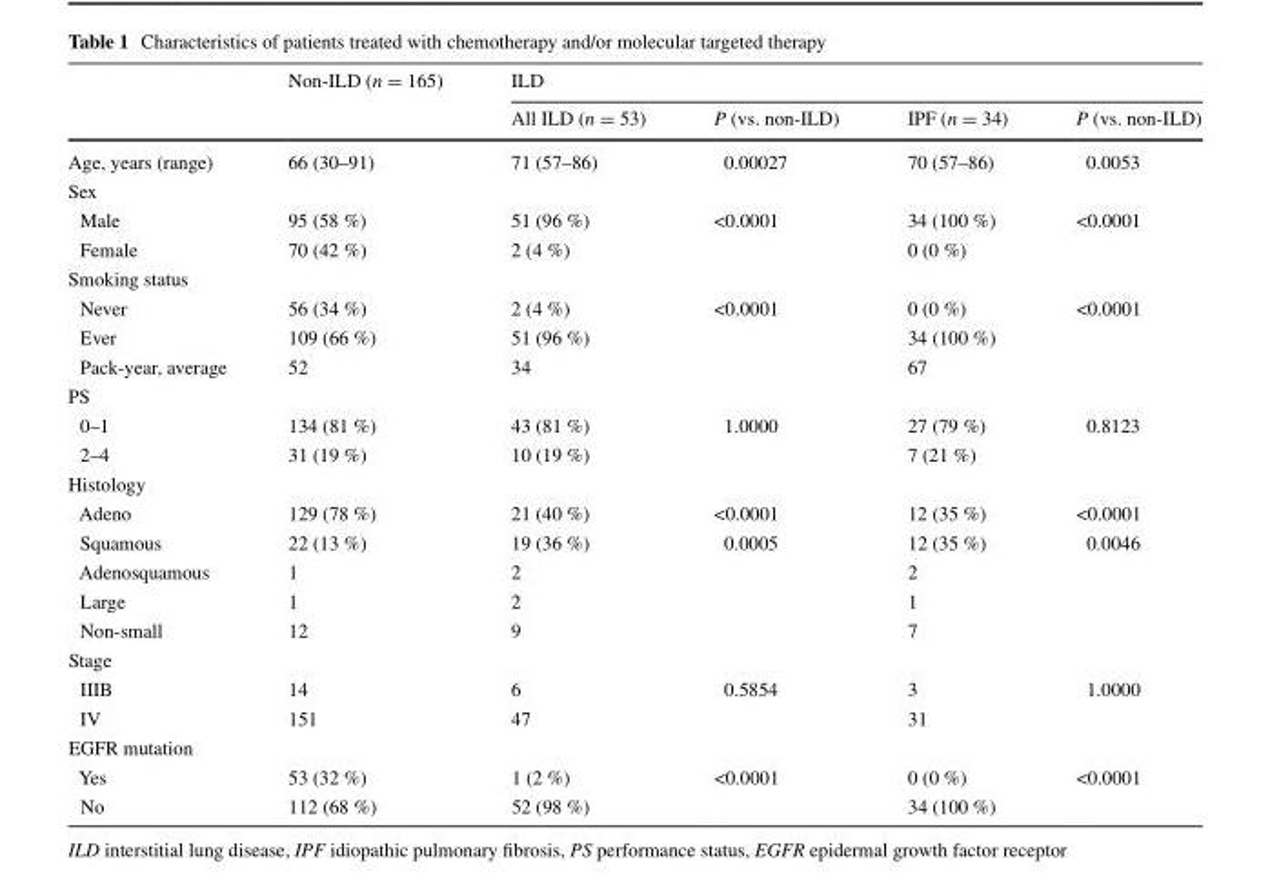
<table><thead><tr><td rowspan="2"></td><td rowspan="2">Non-ILD (n = 165)</td><td colspan="4">ILD</td></tr><tr><td>All ILD (n = 53)</td><td>P (vs. non-ILD)</td><td>IPF (n = 34)</td><td>P (vs. non-ILD)</td></tr></thead><tbody><tr><td>Age, years (range)</td><td>66 (30–91)</td><td>71 (57–86)</td><td>0.00027</td><td>70 (57–86)</td><td>0.0053</td></tr><tr><td colspan="6">Sex</td></tr><tr><td>Male</td><td>95 (58 %)</td><td>51 (96 %)</td><td>&lt;0.0001</td><td>34 (100 %)</td><td>&lt;0.0001</td></tr><tr><td>Female</td><td>70 (42 %)</td><td>2 (4 %)</td><td></td><td>0 (0 %)</td><td></td></tr><tr><td colspan="6">Smoking status</td></tr><tr><td>Never</td><td>56 (34 %)</td><td>2 (4 %)</td><td>&lt;0.0001</td><td>0 (0 %)</td><td>&lt;0.0001</td></tr><tr><td>Ever</td><td>109 (66 %)</td><td>51 (96 %)</td><td></td><td>34 (100 %)</td><td></td></tr><tr><td>Pack-year, average</td><td>52</td><td>34</td><td></td><td>67</td><td></td></tr><tr><td colspan="6">PS</td></tr><tr><td>0–1</td><td>134 (81 %)</td><td>43 (81 %)</td><td>1.0000</td><td>27 (79 %)</td><td>0.8123</td></tr><tr><td>2–4</td><td>31 (19 %)</td><td>10 (19 %)</td><td></td><td>7 (21 %)</td><td></td></tr><tr><td colspan="6">Histology</td></tr><tr><td>Adeno</td><td>129 (78 %)</td><td>21 (40 %)</td><td>&lt;0.0001</td><td>12 (35 %)</td><td>&lt;0.0001</td></tr><tr><td>Squamous</td><td>22 (13 %)</td><td>19 (36 %)</td><td>0.0005</td><td>12 (35 %)</td><td>0.0046</td></tr><tr><td>Adenosquamous</td><td>1</td><td>2</td><td></td><td>2</td><td></td></tr><tr><td>Large</td><td>1</td><td>2</td><td></td><td>1</td><td></td></tr><tr><td>Non-small</td><td>12</td><td>9</td><td></td><td>7</td><td></td></tr><tr><td colspan="6">Stage</td></tr><tr><td>IIIB</td><td>14</td><td>6</td><td>0.5854</td><td>3</td><td>1.0000</td></tr><tr><td>IV</td><td>151</td><td>47</td><td></td><td>31</td><td></td></tr><tr><td colspan="6">EGFR mutation</td></tr><tr><td>Yes</td><td>53 (32 %)</td><td>1 (2 %)</td><td>&lt;0.0001</td><td>0 (0 %)</td><td>&lt;0.0001</td></tr><tr><td>No</td><td>112 (68 %)</td><td>52 (98 %)</td><td></td><td>34 (100 %)</td><td></td></tr></tbody></table>